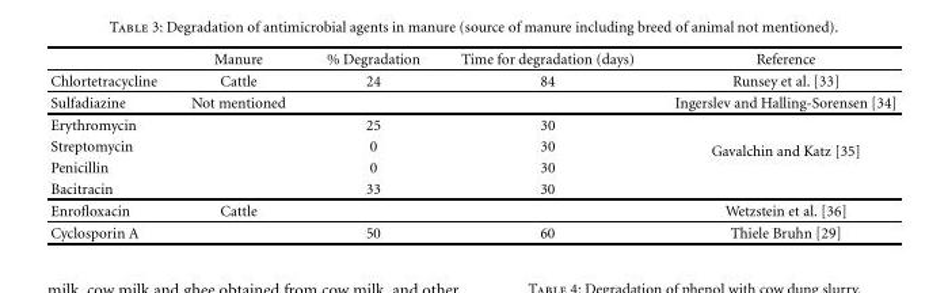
<table><thead><tr><td></td><td>Manure</td><td>% Degradation</td><td>Time for degradation (days)</td><td>Reference</td></tr></thead><tbody><tr><td>Chlortetracycline</td><td>Cattle</td><td>24</td><td>84</td><td>Runsey et al. [33]</td></tr><tr><td>Sulfadiazine</td><td>Not mentioned</td><td></td><td></td><td>Ingerslev and Halling-Sorensen [34]</td></tr><tr><td>Erythromycin</td><td></td><td>25</td><td>30</td><td rowspan="4">Gavalchin and Katz [35]</td></tr><tr><td>Streptomycin</td><td></td><td>0</td><td>30</td></tr><tr><td>Penicillin</td><td></td><td>0</td><td>30</td></tr><tr><td>Bacitracin</td><td></td><td>33</td><td>30</td></tr><tr><td>Enrofloxacin</td><td>Cattle</td><td></td><td></td><td>Wetzstein et al. [36]</td></tr><tr><td>Cyclosporin A</td><td></td><td>50</td><td>60</td><td>Thiele Bruhn [29]</td></tr></tbody></table>